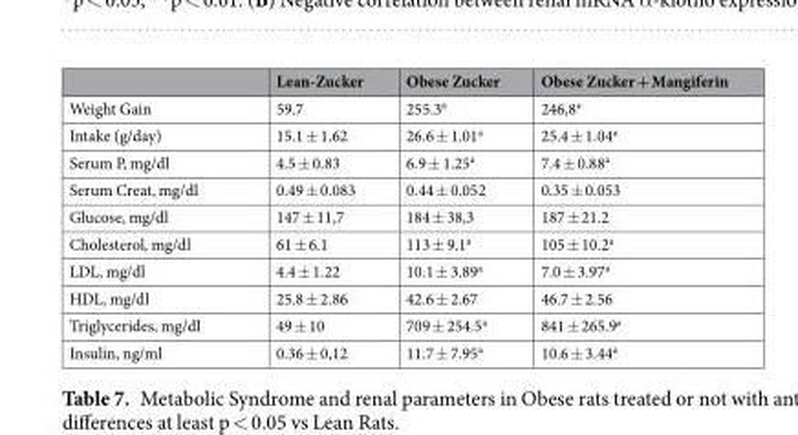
<table><thead><tr><td></td><td>Lean-Zucker</td><td>Obese Zucker</td><td>Obese Zucker + Mangiferin</td></tr></thead><tbody><tr><td>Weight Gain</td><td>59.7</td><td>255.3<sup>a</sup></td><td>246,8<sup>a</sup></td></tr><tr><td>Intake (g/day)</td><td>15.1 ± 1.62</td><td>26.6 ± 1.01<sup>a</sup></td><td>25.4 ± 1.04<sup>a</sup></td></tr><tr><td>Serum P, mg/dl</td><td>4.5 ± 0.83</td><td>6.9 ± 1.25<sup>a</sup></td><td>7.4 ± 0.88<sup>a</sup></td></tr><tr><td>Serum Creat, mg/dl</td><td>0.49 ± 0.083</td><td>0.44 ± 0.052</td><td>0.35 ± 0.053</td></tr><tr><td>Glucose, mg/dl</td><td>147 ± 11,7</td><td>184 ± 38,3</td><td>187 ± 21.2</td></tr><tr><td>Cholesterol, mg/dl</td><td>61 ± 6.1</td><td>113 ± 9.1<sup>a</sup></td><td>105 ± 10.2<sup>a</sup></td></tr><tr><td>LDL, mg/dl</td><td>4.4 ± 1.22</td><td>10.1 ± 3.89<sup>a</sup></td><td>7.0 ± 3.97<sup>a</sup></td></tr><tr><td>HDL, mg/dl</td><td>25.8 ± 2.86</td><td>42.6 ± 2.67</td><td>46.7 ± 2.56</td></tr><tr><td>Triglycerides, mg/dl</td><td>49 ± 10</td><td>709 ± 254.5<sup>a</sup></td><td>841 ± 265.9<sup>a</sup></td></tr><tr><td>Insulin, ng/ml</td><td>0.36 ± 0,12</td><td>11.7 ± 7.95<sup>a</sup></td><td>10.6 ± 3.44<sup>a</sup></td></tr></tbody></table>